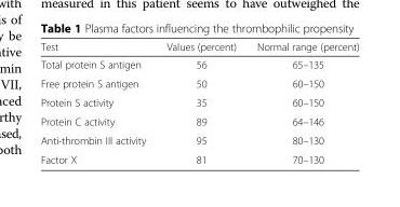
<table><thead><tr><td>Test</td><td>Values (percent)</td><td>Normal range (percent)</td></tr></thead><tbody><tr><td>Total protein S antigen</td><td>56</td><td>65–135</td></tr><tr><td>Free protein S antigen</td><td>50</td><td>60–150</td></tr><tr><td>Protein S activity</td><td>35</td><td>60–150</td></tr><tr><td>Protein C activity</td><td>89</td><td>64–146</td></tr><tr><td>Anti-thrombin III activity</td><td>95</td><td>80–130</td></tr><tr><td>Factor X</td><td>81</td><td>70–130</td></tr></tbody></table>